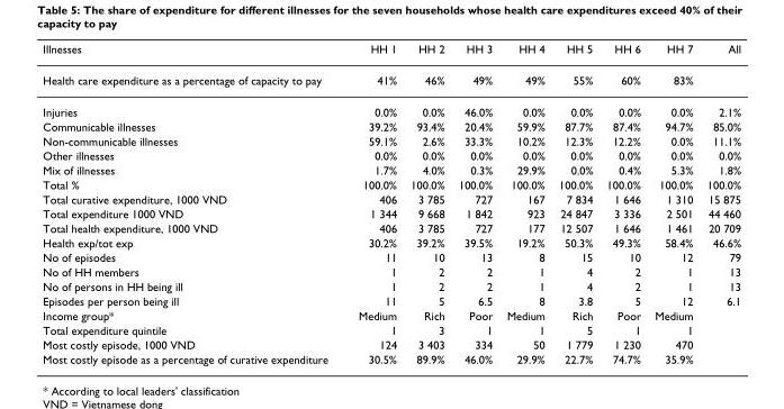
<table><thead><tr><td>Illnesses</td><td>HH 1</td><td>HH 2</td><td>HH 3</td><td>HH 4</td><td>HH 5</td><td>HH 6</td><td>HH 7</td><td>All</td></tr></thead><tbody><tr><td>Health care expenditure as a percentage of capacity to pay</td><td>41%</td><td>46%</td><td>49%</td><td>49%</td><td>55%</td><td>60%</td><td>83%</td><td></td></tr><tr><td>Injuries</td><td>0.0%</td><td>0.0%</td><td>46.0%</td><td>0.0%</td><td>0.0%</td><td>0.0%</td><td>0.0%</td><td>2.1%</td></tr><tr><td>Communicable illnesses</td><td>39.2%</td><td>93.4%</td><td>20.4%</td><td>59.9%</td><td>87.7%</td><td>87.4%</td><td>94.7%</td><td>85.0%</td></tr><tr><td>Non-communicable illnesses</td><td>59.1%</td><td>2.6%</td><td>33.3%</td><td>10.2%</td><td>12.3%</td><td>12.2%</td><td>0.0%</td><td>11.1%</td></tr><tr><td>Other illnesses</td><td>0.0%</td><td>0.0%</td><td>0.0%</td><td>0.0%</td><td>0.0%</td><td>0.0%</td><td>0.0%</td><td>0.0%</td></tr><tr><td>Mix of illnesses</td><td>1.7%</td><td>4.0%</td><td>0.3%</td><td>29.9%</td><td>0.0%</td><td>0.4%</td><td>5.3%</td><td>1.8%</td></tr><tr><td>Total %</td><td>100.0%</td><td>100.0%</td><td>100.0%</td><td>100.0%</td><td>100.0%</td><td>100.0%</td><td>100.0%</td><td>100.0%</td></tr><tr><td>Total curative expenditure, 1000 VND</td><td>406</td><td>3 785</td><td>727</td><td>167</td><td>7 834</td><td>1 646</td><td>1 310</td><td>15 875</td></tr><tr><td>Total expenditure 1000 VND</td><td>1 344</td><td>9 668</td><td>1 842</td><td>923</td><td>24 847</td><td>3 336</td><td>2 501</td><td>44 460</td></tr><tr><td>Total health expenditure, 1000 VND</td><td>406</td><td>3 785</td><td>727</td><td>177</td><td>12 507</td><td>1 646</td><td>1 461</td><td>20 709</td></tr><tr><td>Health exp/tot exp</td><td>30.2%</td><td>39.2%</td><td>39.5%</td><td>19.2%</td><td>50.3%</td><td>49.3%</td><td>58.4%</td><td>46.6%</td></tr><tr><td>No of episodes</td><td>11</td><td>10</td><td>13</td><td>8</td><td>15</td><td>10</td><td>12</td><td>79</td></tr><tr><td>No of HH members</td><td>1</td><td>2</td><td>2</td><td>1</td><td>4</td><td>2</td><td>1</td><td>13</td></tr><tr><td>No of persons in HH being ill</td><td>1</td><td>2</td><td>2</td><td>1</td><td>4</td><td>2</td><td>1</td><td>13</td></tr><tr><td>Episodes per person being ill</td><td>11</td><td>5</td><td>6.5</td><td>8</td><td>3.8</td><td>5</td><td>12</td><td>6.1</td></tr><tr><td>Income group*</td><td>Medium</td><td>Rich</td><td>Poor</td><td>Medium</td><td>Rich</td><td>Poor</td><td>Medium</td><td></td></tr><tr><td>Total expenditure quintile</td><td>1</td><td>3</td><td>1</td><td>1</td><td>5</td><td>1</td><td>1</td><td></td></tr><tr><td>Most costly episode, 1000 VND</td><td>124</td><td>3 403</td><td>334</td><td>50</td><td>1 779</td><td>1 230</td><td>470</td><td></td></tr><tr><td>Most costly episode as a percentage of curative expenditure</td><td>30.5%</td><td>89.9%</td><td>46.0%</td><td>29.9%</td><td>22.7%</td><td>74.7%</td><td>35.9%</td><td></td></tr></tbody></table>